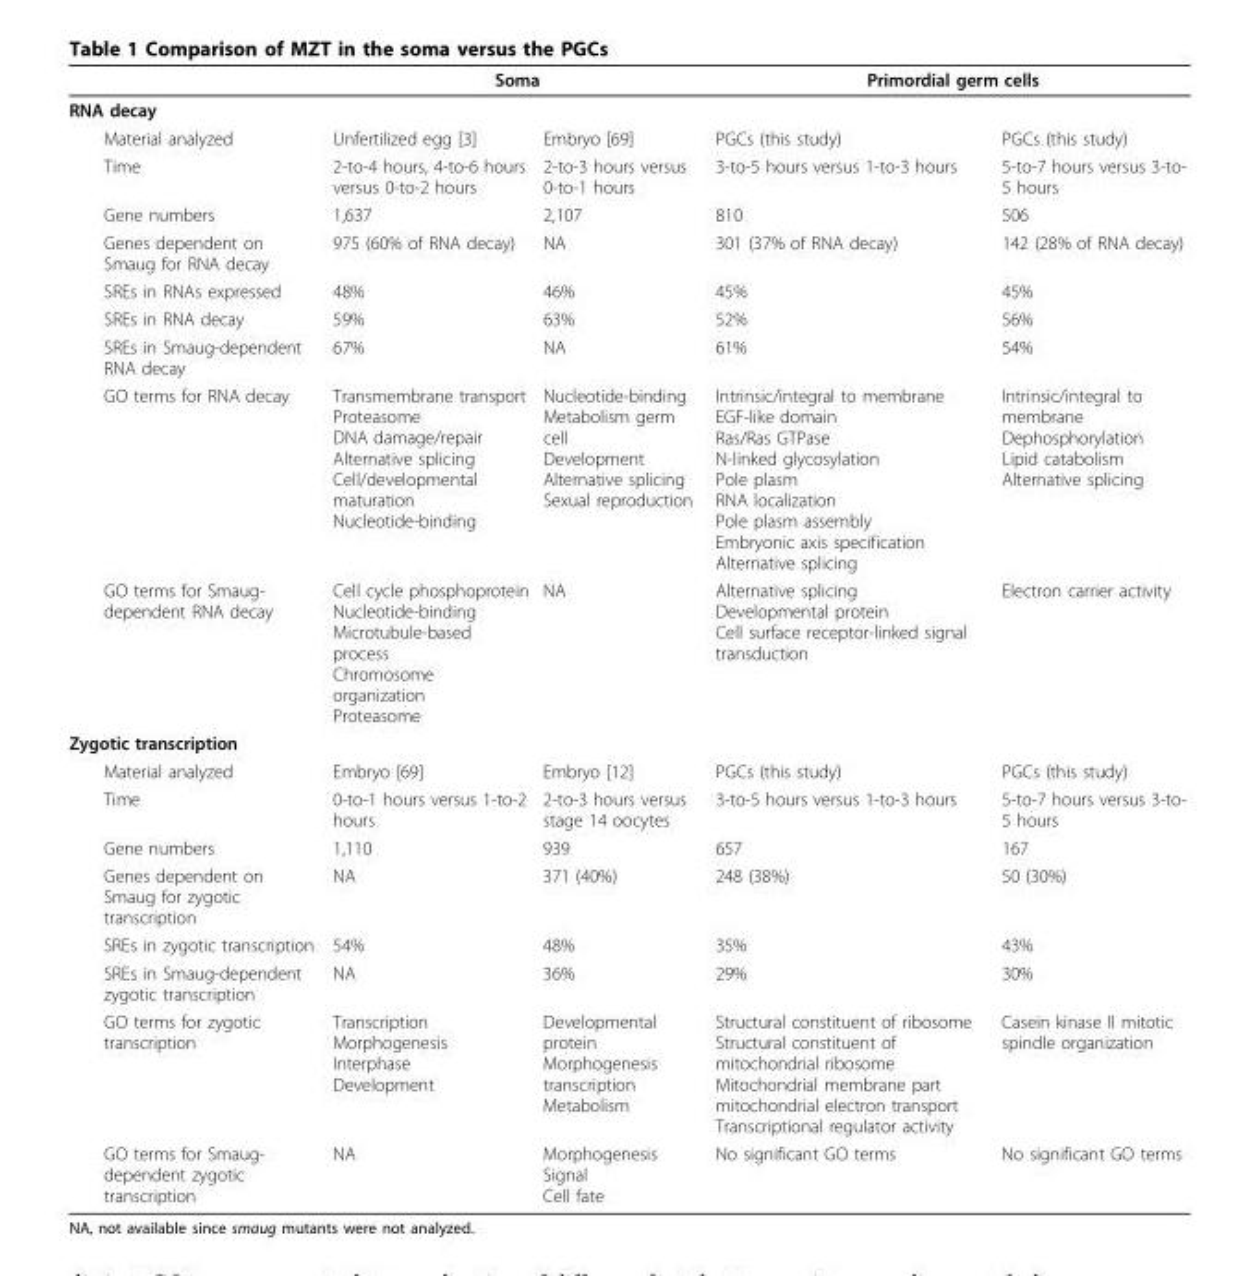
<table><thead><tr><td rowspan="2">RNA decay</td><td colspan="2">Soma</td><td colspan="2">Primordial germ cells</td></tr><tr><td></td><td></td><td></td><td></td></tr></thead><tbody><tr><td>Material analyzed</td><td>Unfertilized egg [3]</td><td>Embryo [69]</td><td>PGCs (this study)</td><td>PGCs (this study)</td></tr><tr><td>Time</td><td>2-to-4 hours, 4-to-6 hours versus 0-to-2 hours</td><td>2-to-3 hours versus 0-to-1 hours</td><td>3-to-5 hours versus 1-to-3 hours</td><td>5-to-7 hours versus 3-to- 5 hours</td></tr><tr><td>Gene numbers</td><td>1,637</td><td>2,107</td><td>810</td><td>506</td></tr><tr><td>Genes dependent on Smaug for RNA decay</td><td>975 (60% of RNA decay)</td><td>NA</td><td>301 (37% of RNA decay)</td><td>142 (28% of RNA decay)</td></tr><tr><td>SREs in RNAs expressed</td><td>48%</td><td>46%</td><td>45%</td><td>45%</td></tr><tr><td>SREs in RNA decay</td><td>59%</td><td>63%</td><td>52%</td><td>56%</td></tr><tr><td>SREs in Smaug-dependent RNA decay</td><td>67%</td><td>NA</td><td>61%</td><td>54%</td></tr><tr><td>GO terms for RNA decay</td><td>Transmembrane transport Proteasome DNA damage/repair Alternative splicing Cell/developmental maturation Nucleotide-binding</td><td>Nucleotide-binding Metabolism germ cell Development Alternative splicing Sexual reproduction</td><td>Intrinsic/integral to membrane EGF-like domain Ras/Ras GTPase N-linked glycosylation Pole plasm RNA localization Pole plasm assembly Embryonic axis specification Alternative splicing</td><td>Intrinsic/integral to membrane Dephosphorylation Lipid catabolism Alternative splicing</td></tr><tr><td>GO terms for Smaug- dependent RNA decay</td><td>Cell cycle phosphoprotein Nucleotide-binding Microtubule-based process Chromosome organization Proteasome</td><td>NA</td><td>Alternative splicing Developmental protein Cell surface receptor-linked signal transduction</td><td>Electron carrier activity</td></tr><tr><td colspan="5">Zygotic transcription</td></tr><tr><td>Material analyzed</td><td>Embryo [69]</td><td>Embryo [12]</td><td>PGCs (this study)</td><td>PGCs (this study)</td></tr><tr><td>Time</td><td>0-to-1 hours versus 1-to-2 hours</td><td>2-to-3 hours versus stage 14 oocytes</td><td>3-to-5 hours versus 1-to-3 hours</td><td>5-to-7 hours versus 3-to- 5 hours</td></tr><tr><td>Gene numbers</td><td>1,110</td><td>939</td><td>657</td><td>167</td></tr><tr><td>Genes dependent on Smaug for zygotic transcription</td><td>NA</td><td>371 (40%)</td><td>248 (38%)</td><td>50 (30%)</td></tr><tr><td>SREs in zygotic transcription</td><td>54%</td><td>48%</td><td>35%</td><td>43%</td></tr><tr><td>SREs in Smaug-dependent zygotic transcription</td><td>NA</td><td>36%</td><td>29%</td><td>30%</td></tr><tr><td>GO terms for zygotic transcription</td><td>Transcription Morphogenesis Interphase Development</td><td>Developmental protein Morphogenesis transcription Metabolism</td><td>Structural constituent of ribosome Structural constituent of mitochondrial ribosome Mitochondrial membrane part mitochondrial electron transport Transcriptional regulator activity</td><td>Casein kinase II mitotic spindle organization</td></tr><tr><td>GO terms for Smaug- dependent zygotic transcription</td><td>NA</td><td>Morphogenesis Signal Cell fate</td><td>No significant GO terms</td><td>No significant GO terms</td></tr></tbody></table>